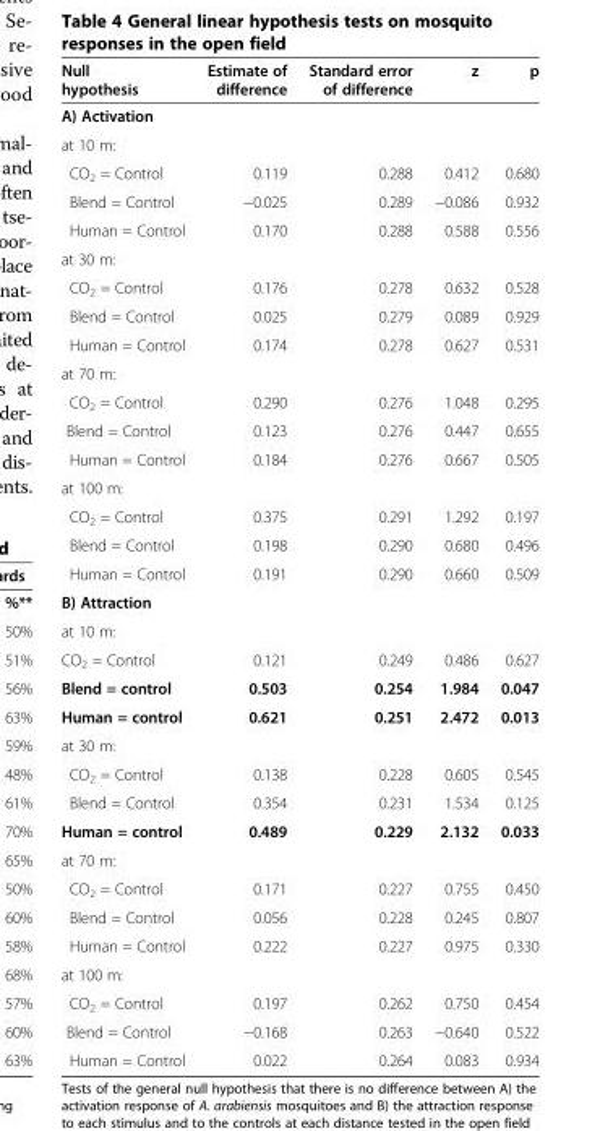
<table><thead><tr><td>Null hypothesis</td><td>Estimate of difference</td><td>Standard error of difference</td><td>z</td><td>p</td></tr></thead><tbody><tr><td>A) Activation</td><td rowspan="2"></td><td rowspan="2"></td><td rowspan="2"></td><td rowspan="2"></td></tr><tr><td>at 10 m:</td></tr><tr><td>CO<sub>2</sub> = Control</td><td>0.119</td><td>0.288</td><td>0.412</td><td>0.680</td></tr><tr><td>Blend = Control</td><td>−0.025</td><td>0.289</td><td>−0.086</td><td>0.932</td></tr><tr><td>Human = Control</td><td>0.170</td><td>0.288</td><td>0.588</td><td>0.556</td></tr><tr><td colspan="5">at 30 m:</td></tr><tr><td>CO<sub>2</sub> = Control</td><td>0.176</td><td>0.278</td><td>0.632</td><td>0.528</td></tr><tr><td>Blend = Control</td><td>0.025</td><td>0.279</td><td>0.089</td><td>0.929</td></tr><tr><td>Human = Control</td><td>0.174</td><td>0.278</td><td>0.627</td><td>0.531</td></tr><tr><td colspan="5">at 70 m:</td></tr><tr><td>CO<sub>2</sub> = Control</td><td>0.290</td><td>0.276</td><td>1.048</td><td>0.295</td></tr><tr><td>Blend = Control</td><td>0.123</td><td>0.276</td><td>0.447</td><td>0.655</td></tr><tr><td>Human = Control</td><td>0.184</td><td>0.276</td><td>0.667</td><td>0.505</td></tr><tr><td colspan="5">at 100 m:</td></tr><tr><td>CO<sub>2</sub> = Control</td><td>0.375</td><td>0.291</td><td>1.292</td><td>0.197</td></tr><tr><td>Blend = Control</td><td>0.198</td><td>0.290</td><td>0.680</td><td>0.496</td></tr><tr><td>Human = Control</td><td>0.191</td><td>0.290</td><td>0.660</td><td>0.509</td></tr><tr><td>B) Attraction</td><td rowspan="2"></td><td rowspan="2"></td><td rowspan="2"></td><td rowspan="2"></td></tr><tr><td>at 10 m:</td></tr><tr><td>CO<sub>2</sub> = Control</td><td>0.121</td><td>0.249</td><td>0.486</td><td>0.627</td></tr><tr><td>Blend = control</td><td>0.503</td><td>0.254</td><td>1.984</td><td>0.047</td></tr><tr><td>Human = control</td><td>0.621</td><td>0.251</td><td>2.472</td><td>0.013</td></tr><tr><td colspan="5">at 30 m:</td></tr><tr><td>CO<sub>2</sub> = Control</td><td>0.138</td><td>0.228</td><td>0.605</td><td>0.545</td></tr><tr><td>Blend = Control</td><td>0.354</td><td>0.231</td><td>1.534</td><td>0.125</td></tr><tr><td>Human = control</td><td>0.489</td><td>0.229</td><td>2.132</td><td>0.033</td></tr><tr><td colspan="5">at 70 m:</td></tr><tr><td>CO<sub>2</sub> = Control</td><td>0.171</td><td>0.227</td><td>0.755</td><td>0.450</td></tr><tr><td>Blend = Control</td><td>0.056</td><td>0.228</td><td>0.245</td><td>0.807</td></tr><tr><td>Human = Control</td><td>0.222</td><td>0.227</td><td>0.975</td><td>0.330</td></tr><tr><td colspan="5">at 100 m:</td></tr><tr><td>CO<sub>2</sub> = Control</td><td>0.197</td><td>0.262</td><td>0.750</td><td>0.454</td></tr><tr><td>Blend = Control</td><td>−0.168</td><td>0.263</td><td>−0.640</td><td>0.522</td></tr><tr><td>Human = Control</td><td>0.022</td><td>0.264</td><td>0.083</td><td>0.934</td></tr></tbody></table>